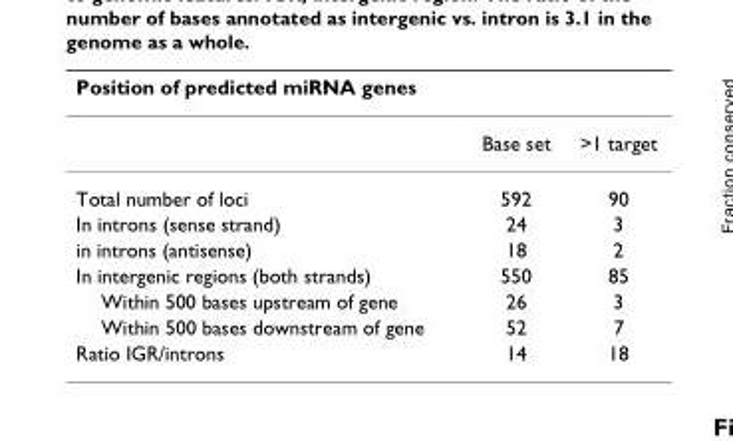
<table><thead><tr><td colspan="3">Position of predicted miRNA genes</td></tr><tr><td></td><td>Base set</td><td>&gt;1 target</td></tr></thead><tbody><tr><td>Total number of loci</td><td>592</td><td>90</td></tr><tr><td>In introns (sense strand)</td><td>24</td><td>3</td></tr><tr><td>in introns (antisense)</td><td>18</td><td>2</td></tr><tr><td>In intergenic regions (both strands)</td><td>550</td><td>85</td></tr><tr><td>Within 500 bases upstream of gene</td><td>26</td><td>3</td></tr><tr><td>Within 500 bases downstream of gene</td><td>52</td><td>7</td></tr><tr><td>Ratio IGR/introns</td><td>14</td><td>18</td></tr></tbody></table>